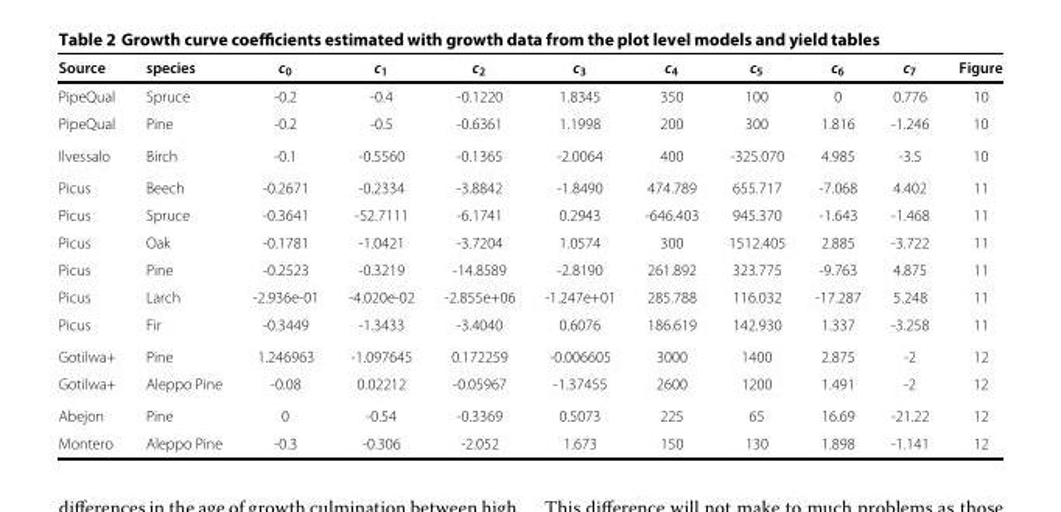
<table><thead><tr><td>Source</td><td>species</td><td>c<sub>0</sub></td><td>c<sub>1</sub></td><td>c<sub>2</sub></td><td>c<sub>3</sub></td><td>c<sub>4</sub></td><td>c<sub>5</sub></td><td>c<sub>6</sub></td><td>c<sub>7</sub></td><td>Figure</td></tr></thead><tbody><tr><td>PipeQual</td><td>Spruce</td><td>-0.2</td><td>-0.4</td><td>-0.1220</td><td>1.8345</td><td>350</td><td>100</td><td>0</td><td>0.776</td><td>10</td></tr><tr><td>PipeQual</td><td>Pine</td><td>-0.2</td><td>-0.5</td><td>-0.6361</td><td>1.1998</td><td>200</td><td>300</td><td>1.816</td><td>-1.246</td><td>10</td></tr><tr><td>Ilvessalo</td><td>Birch</td><td>-0.1</td><td>-0.5560</td><td>-0.1365</td><td>-2.0064</td><td>400</td><td>-325.070</td><td>4.985</td><td>-3.5</td><td>10</td></tr><tr><td>Picus</td><td>Beech</td><td>-0.2671</td><td>-0.2334</td><td>-3.8842</td><td>-1.8490</td><td>474.789</td><td>655.717</td><td>-7.068</td><td>4.402</td><td>11</td></tr><tr><td>Picus</td><td>Spruce</td><td>-0.3641</td><td>-52.7111</td><td>-6.1741</td><td>0.2943</td><td>-646.403</td><td>945.370</td><td>-1.643</td><td>-1.468</td><td>11</td></tr><tr><td>Picus</td><td>Oak</td><td>-0.1781</td><td>-1.0421</td><td>-3.7204</td><td>1.0574</td><td>300</td><td>1512.405</td><td>2.885</td><td>-3.722</td><td>11</td></tr><tr><td>Picus</td><td>Pine</td><td>-0.2523</td><td>-0.3219</td><td>-14.8589</td><td>-2.8190</td><td>261.892</td><td>323.775</td><td>-9.763</td><td>4.875</td><td>11</td></tr><tr><td>Picus</td><td>Larch</td><td>-2.936e-01</td><td>-4.020e-02</td><td>-2.855e+06</td><td>-1.247e+01</td><td>285.788</td><td>116.032</td><td>-17.287</td><td>5.248</td><td>11</td></tr><tr><td>Picus</td><td>Fir</td><td>-0.3449</td><td>-1.3433</td><td>-3.4040</td><td>0.6076</td><td>186.619</td><td>142.930</td><td>1.337</td><td>-3.258</td><td>11</td></tr><tr><td>Gotilwa+</td><td>Pine</td><td>1.246963</td><td>-1.097645</td><td>0.172259</td><td>-0.006605</td><td>3000</td><td>1400</td><td>2.875</td><td>-2</td><td>12</td></tr><tr><td>Gotilwa+</td><td>Aleppo Pine</td><td>-0.08</td><td>0.02212</td><td>-0.05967</td><td>-1.37455</td><td>2600</td><td>1200</td><td>1.491</td><td>-2</td><td>12</td></tr><tr><td>Abejon</td><td>Pine</td><td>0</td><td>-0.54</td><td>-0.3369</td><td>0.5073</td><td>225</td><td>65</td><td>16.69</td><td>-21.22</td><td>12</td></tr><tr><td>Montero</td><td>Aleppo Pine</td><td>-0.3</td><td>-0.306</td><td>-2.052</td><td>1.673</td><td>150</td><td>130</td><td>1.898</td><td>-1.141</td><td>12</td></tr></tbody></table>